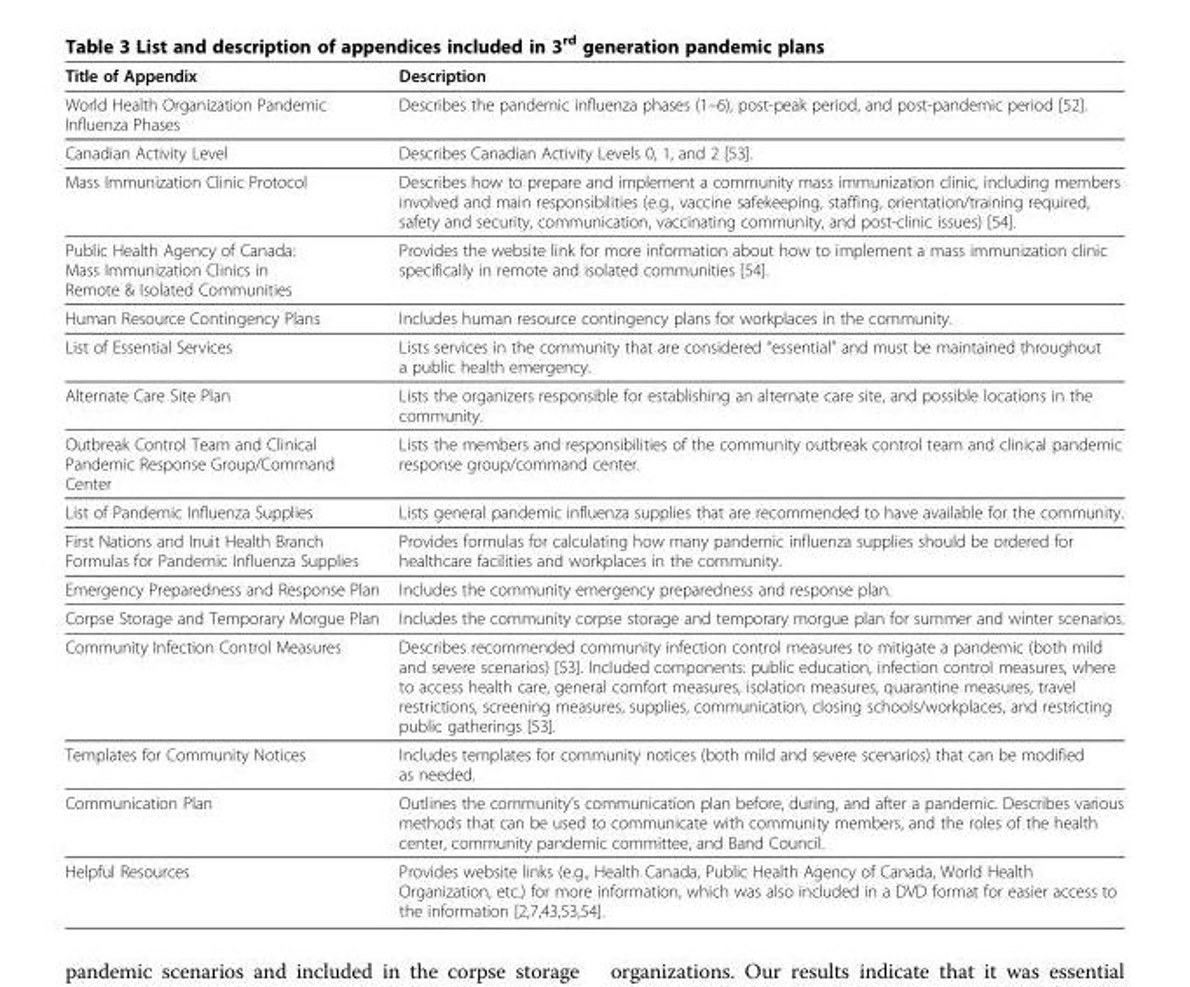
<table><thead><tr><td>Title of Appendix</td><td>Description</td></tr></thead><tbody><tr><td>World Health Organization Pandemic Influenza Phases</td><td>Describes the pandemic influenza phases (1–6), post-peak period, and post-pandemic period [52].</td></tr><tr><td>Canadian Activity Level</td><td>Describes Canadian Activity Levels 0, 1, and 2 [53].</td></tr><tr><td>Mass Immunization Clinic Protocol</td><td>Describes how to prepare and implement a community mass immunization clinic, including members involved and main responsibilities (e.g., vaccine safekeeping, staffing, orientation/training required, safety and security, communication, vaccinating community, and post-clinic issues) [54].</td></tr><tr><td>Public Health Agency of Canada: Mass Immunization Clinics in Remote &amp; Isolated Communities</td><td>Provides the website link for more information about how to implement a mass immunization clinic specifically in remote and isolated communities [54].</td></tr><tr><td>Human Resource Contingency Plans</td><td>Includes human resource contingency plans for workplaces in the community.</td></tr><tr><td>List of Essential Services</td><td>Lists services in the community that are considered “essential” and must be maintained throughout a public health emergency.</td></tr><tr><td>Alternate Care Site Plan</td><td>Lists the organizers responsible for establishing an alternate care site, and possible locations in the community.</td></tr><tr><td>Outbreak Control Team and Clinical Pandemic Response Group/Command Center</td><td>Lists the members and responsibilities of the community outbreak control team and clinical pandemic response group/command center.</td></tr><tr><td>List of Pandemic Influenza Supplies</td><td>Lists general pandemic influenza supplies that are recommended to have available for the community.</td></tr><tr><td>First Nations and Inuit Health Branch Formulas for Pandemic Influenza Supplies</td><td>Provides formulas for calculating how many pandemic influenza supplies should be ordered for healthcare facilities and workplaces in the community.</td></tr><tr><td>Emergency Preparedness and Response Plan</td><td>Includes the community emergency preparedness and response plan.</td></tr><tr><td>Corpse Storage and Temporary Morgue Plan</td><td>Includes the community corpse storage and temporary morgue plan for summer and winter scenarios.</td></tr><tr><td>Community Infection Control Measures</td><td>Describes recommended community infection control measures to mitigate a pandemic (both mild and severe scenarios) [53]. Included components: public education, infection control measures, where to access health care, general comfort measures, isolation measures, quarantine measures, travel restrictions, screening measures, supplies, communication, closing schools/workplaces, and restricting public gatherings [53].</td></tr><tr><td>Templates for Community Notices</td><td>Includes templates for community notices (both mild and severe scenarios) that can be modified as needed.</td></tr><tr><td>Communication Plan</td><td>Outlines the community’s communication plan before, during, and after a pandemic. Describes various methods that can be used to communicate with community members, and the roles of the health center, community pandemic committee, and Band Council.</td></tr><tr><td>Helpful Resources</td><td>Provides website links (e.g., Health Canada, Public Health Agency of Canada, World Health Organization, etc.) for more information, which was also included in a DVD format for easier access to the information [2,7,43,53,54].</td></tr></tbody></table>